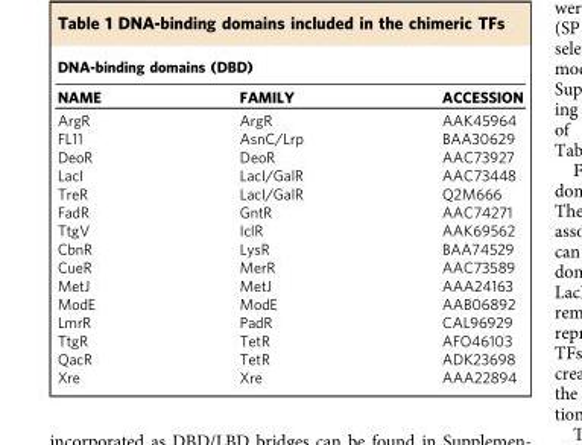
<table><thead><tr><td colspan="3">DNA-binding domains (DBD)</td></tr><tr><td>NAME</td><td>FAMILY</td><td>ACCESSION</td></tr></thead><tbody><tr><td>ArgR</td><td>ArgR</td><td>AAK45964</td></tr><tr><td>FL11</td><td>AsnC/Lrp</td><td>BAA30629</td></tr><tr><td>DeoR</td><td>DeoR</td><td>AAC73927</td></tr><tr><td>LacI</td><td>LacI/GalR</td><td>AAC73448</td></tr><tr><td>TreR</td><td>LacI/GalR</td><td>Q2M666</td></tr><tr><td>FadR</td><td>GntR</td><td>AAC74271</td></tr><tr><td>TtgV</td><td>IclR</td><td>AAK69562</td></tr><tr><td>CbnR</td><td>LysR</td><td>BAA74529</td></tr><tr><td>CueR</td><td>MerR</td><td>AAC73589</td></tr><tr><td>MetJ</td><td>MetJ</td><td>AAA24163</td></tr><tr><td>ModE</td><td>ModE</td><td>AAB06892</td></tr><tr><td>LmrR</td><td>PadR</td><td>CAL96929</td></tr><tr><td>TtgR</td><td>TetR</td><td>AFO46103</td></tr><tr><td>QacR</td><td>TetR</td><td>ADK23698</td></tr><tr><td>Xre</td><td>Xre</td><td>AAA22894</td></tr></tbody></table>